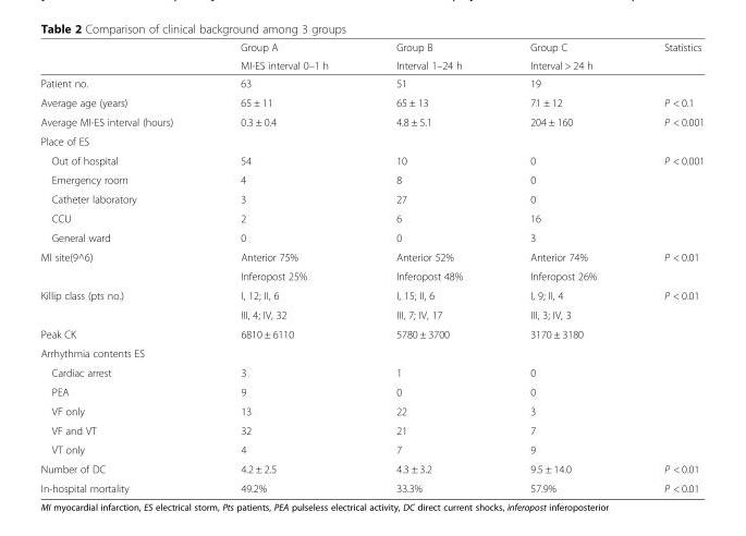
<table><thead><tr><td rowspan="2"></td><td rowspan="2">Group A MI-ES interval 0–1 h</td><td rowspan="2">Group B Interval 1–24 h</td><td rowspan="2">Group C Interval &gt; 24 h</td><td rowspan="2">Statistics</td></tr><tr></tr></thead><tbody><tr><td>Patient no.</td><td>63</td><td>51</td><td>19</td><td></td></tr><tr><td>Average age (years)</td><td>65 ± 11</td><td>65 ± 13</td><td>71 ± 12</td><td>P &lt; 0.1</td></tr><tr><td>Average MI-ES interval (hours)</td><td>0.3 ± 0.4</td><td>4.8 ± 5.1</td><td>204 ± 160</td><td>P &lt; 0.001</td></tr><tr><td colspan="5">Place of ES</td></tr><tr><td>Out of hospital</td><td>54</td><td>10</td><td>0</td><td rowspan="5">P &lt; 0.001</td></tr><tr><td>Emergency room</td><td>4</td><td>8</td><td>0</td></tr><tr><td>Catheter laboratory</td><td>3</td><td>27</td><td>0</td></tr><tr><td>CCU</td><td>2</td><td>6</td><td>16</td></tr><tr><td>General ward</td><td>0</td><td>0</td><td>3</td></tr><tr><td rowspan="2">Ml site(9^6)</td><td>Anterior 75%</td><td>Anterior 52%</td><td>Anterior 74%</td><td rowspan="2">P &lt; 0.01</td></tr><tr><td>Inferopost 25%</td><td>Inferopost 48%</td><td>Inferopost 26%</td></tr><tr><td rowspan="2">Killip class (pts no.)</td><td>I, 12; II, 6</td><td>I, 15; II, 6</td><td>I, 9; II, 4</td><td rowspan="2">P &lt; 0.01</td></tr><tr><td>III, 4; IV, 32</td><td>III, 7; IV, 17</td><td>III, 3; IV, 3</td></tr><tr><td>Peak CK</td><td>6810 ± 6110</td><td>5780 ± 3700</td><td>3170 ± 3180</td><td></td></tr><tr><td colspan="5">Arrhythmia contents ES</td></tr><tr><td>Cardiac arrest</td><td>3</td><td>1</td><td>0</td><td></td></tr><tr><td>PEA</td><td>9</td><td>0</td><td>0</td><td></td></tr><tr><td>VF only</td><td>13</td><td>22</td><td>3</td><td></td></tr><tr><td>VF and VT</td><td>32</td><td>21</td><td>7</td><td></td></tr><tr><td>VT only</td><td>4</td><td>7</td><td>9</td><td></td></tr><tr><td>Number of DC</td><td>4.2 ± 2.5</td><td>4.3 ± 3.2</td><td>9.5 ± 14.0</td><td>P &lt; 0.01</td></tr><tr><td>In-hospital mortality</td><td>49.2%</td><td>33.3%</td><td>57.9%</td><td>P &lt; 0.01</td></tr></tbody></table>